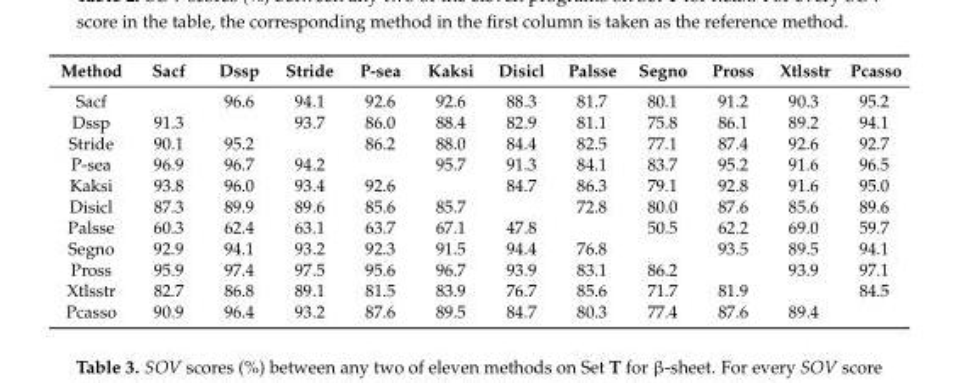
<table><thead><tr><td>Method</td><td>Sacf</td><td>Dssp</td><td>Stride</td><td>P-sea</td><td>Kaksi</td><td>Disicl</td><td>Palsse</td><td>Segno</td><td>Pross</td><td>Xtlsstr</td><td>Pcasso</td></tr></thead><tbody><tr><td>Sacf</td><td></td><td>96.6</td><td>94.1</td><td>92.6</td><td>92.6</td><td>88.3</td><td>81.7</td><td>80.1</td><td>91.2</td><td>90.3</td><td>95.2</td></tr><tr><td>Dssp</td><td>91.3</td><td></td><td>93.7</td><td>86.0</td><td>88.4</td><td>82.9</td><td>81.1</td><td>75.8</td><td>86.1</td><td>89.2</td><td>94.1</td></tr><tr><td>Stride</td><td>90.1</td><td>95.2</td><td></td><td>86.2</td><td>88.0</td><td>84.4</td><td>82.5</td><td>77.1</td><td>87.4</td><td>92.6</td><td>92.7</td></tr><tr><td>P-sea</td><td>96.9</td><td>96.7</td><td>94.2</td><td></td><td>95.7</td><td>91.3</td><td>84.1</td><td>83.7</td><td>95.2</td><td>91.6</td><td>96.5</td></tr><tr><td>Kaksi</td><td>93.8</td><td>96.0</td><td>93.4</td><td>92.6</td><td></td><td>84.7</td><td>86.3</td><td>79.1</td><td>92.8</td><td>91.6</td><td>95.0</td></tr><tr><td>Disicl</td><td>87.3</td><td>89.9</td><td>89.6</td><td>85.6</td><td>85.7</td><td></td><td>72.8</td><td>80.0</td><td>87.6</td><td>85.6</td><td>89.6</td></tr><tr><td>Palsse</td><td>60.3</td><td>62.4</td><td>63.1</td><td>63.7</td><td>67.1</td><td>47.8</td><td></td><td>50.5</td><td>62.2</td><td>69.0</td><td>59.7</td></tr><tr><td>Segno</td><td>92.9</td><td>94.1</td><td>93.2</td><td>92.3</td><td>91.5</td><td>94.4</td><td>76.8</td><td></td><td>93.5</td><td>89.5</td><td>94.1</td></tr><tr><td>Pross</td><td>95.9</td><td>97.4</td><td>97.5</td><td>95.6</td><td>96.7</td><td>93.9</td><td>83.1</td><td>86.2</td><td></td><td>93.9</td><td>97.1</td></tr><tr><td>Xtlsstr</td><td>82.7</td><td>86.8</td><td>89.1</td><td>81.5</td><td>83.9</td><td>76.7</td><td>85.6</td><td>71.7</td><td>81.9</td><td></td><td>84.5</td></tr><tr><td>Pcasso</td><td>90.9</td><td>96.4</td><td>93.2</td><td>87.6</td><td>89.5</td><td>84.7</td><td>80.3</td><td>77.4</td><td>87.6</td><td>89.4</td><td></td></tr></tbody></table>